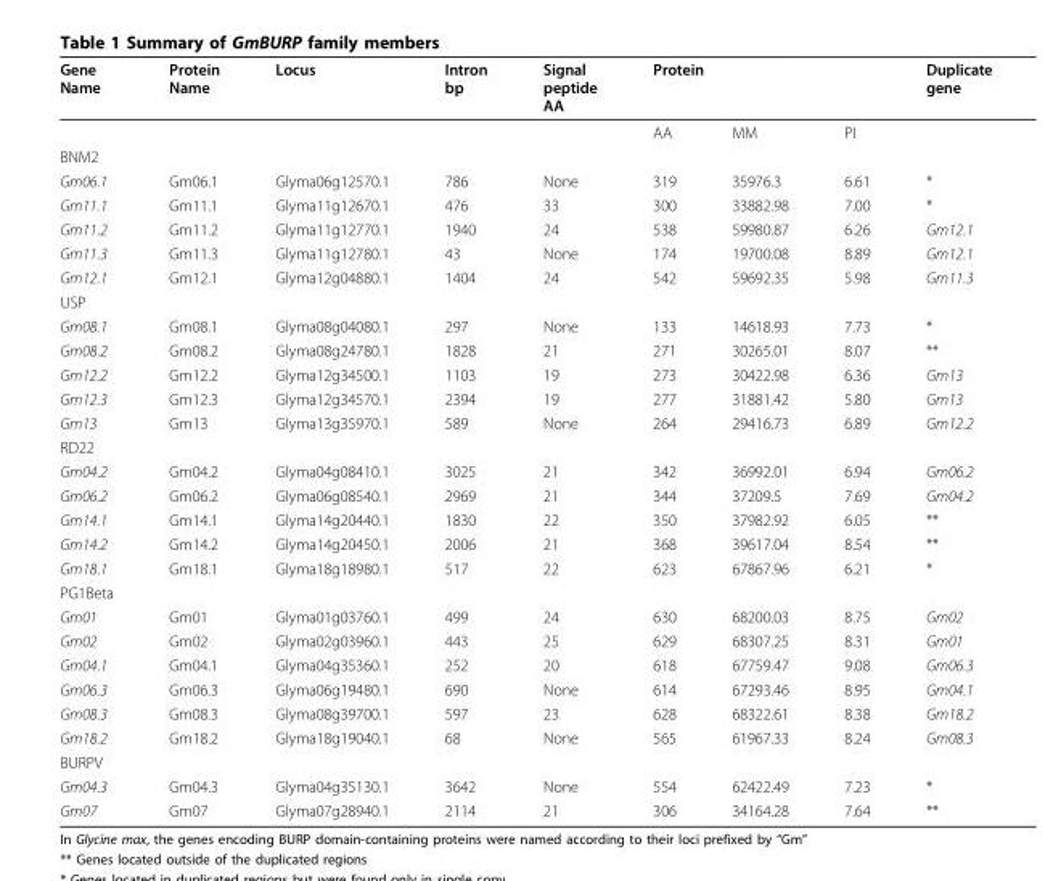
<table><thead><tr><td rowspan="2">Gene Name</td><td rowspan="2">Protein Name</td><td rowspan="2">Locus</td><td rowspan="2">Intron bp</td><td rowspan="2">Signal peptide AA</td><td colspan="3">Protein</td><td rowspan="2">Duplicate gene</td></tr><tr><td>AA</td><td>MM</td><td>PI</td></tr></thead><tbody><tr><td colspan="9">BNM2</td></tr><tr><td>Gm06.1</td><td>Gm06.1</td><td>Glyma06g12570.1</td><td>786</td><td>None</td><td>319</td><td>35976.3</td><td>6.61</td><td>*</td></tr><tr><td>Gm11.1</td><td>Gm11.1</td><td>Glyma11g12670.1</td><td>476</td><td>33</td><td>300</td><td>33882.98</td><td>7.00</td><td>*</td></tr><tr><td>Gm11.2</td><td>Gm11.2</td><td>Glyma11g12770.1</td><td>1940</td><td>24</td><td>538</td><td>59980.87</td><td>6.26</td><td>Gm12.1</td></tr><tr><td>Gm11.3</td><td>Gm11.3</td><td>Glyma11g12780.1</td><td>43</td><td>None</td><td>174</td><td>19700.08</td><td>8.89</td><td>Gm12.1</td></tr><tr><td>Gm12.1</td><td>Gm12.1</td><td>Glyma12g04880.1</td><td>1404</td><td>24</td><td>542</td><td>59692.35</td><td>5.98</td><td>Gm11.3</td></tr><tr><td colspan="9">USP</td></tr><tr><td>Gm08.1</td><td>Gm08.1</td><td>Glyma08g04080.1</td><td>297</td><td>None</td><td>133</td><td>14618.93</td><td>7.73</td><td>*</td></tr><tr><td>Gm08.2</td><td>Gm08.2</td><td>Glyma08g24780.1</td><td>1828</td><td>21</td><td>271</td><td>30265.01</td><td>8.07</td><td>**</td></tr><tr><td>Gm12.2</td><td>Gm12.2</td><td>Glyma12g34500.1</td><td>1103</td><td>19</td><td>273</td><td>30422.98</td><td>6.36</td><td>Gm13</td></tr><tr><td>Gm12.3</td><td>Gm12.3</td><td>Glyma12g34570.1</td><td>2394</td><td>19</td><td>277</td><td>31881.42</td><td>5.80</td><td>Gm13</td></tr><tr><td>Gm13</td><td>Gm13</td><td>Glyma13g35970.1</td><td>589</td><td>None</td><td>264</td><td>29416.73</td><td>6.89</td><td>Gm12.2</td></tr><tr><td colspan="9">RD22</td></tr><tr><td>Gm04.2</td><td>Gm04.2</td><td>Glyma04g08410.1</td><td>3025</td><td>21</td><td>342</td><td>36992.01</td><td>6.94</td><td>Gm06.2</td></tr><tr><td>Gm06.2</td><td>Gm06.2</td><td>Glyma06g08540.1</td><td>2969</td><td>21</td><td>344</td><td>37209.5</td><td>7.69</td><td>Gm04.2</td></tr><tr><td>Gm14.1</td><td>Gm14.1</td><td>Glyma14g20440.1</td><td>1830</td><td>22</td><td>350</td><td>37982.92</td><td>6.05</td><td>**</td></tr><tr><td>Gm14.2</td><td>Gm14.2</td><td>Glyma14g20450.1</td><td>2006</td><td>21</td><td>368</td><td>39617.04</td><td>8.54</td><td>**</td></tr><tr><td>Gm18.1</td><td>Gm18.1</td><td>Glyma18g18980.1</td><td>517</td><td>22</td><td>623</td><td>67867.96</td><td>6.21</td><td>*</td></tr><tr><td colspan="9">PG1Beta</td></tr><tr><td>Gm01</td><td>Gm01</td><td>Glyma01g03760.1</td><td>499</td><td>24</td><td>630</td><td>68200.03</td><td>8.75</td><td>Gm02</td></tr><tr><td>Gm02</td><td>Gm02</td><td>Glyma02g03960.1</td><td>443</td><td>25</td><td>629</td><td>68307.25</td><td>8.31</td><td>Gm01</td></tr><tr><td>Gm04.1</td><td>Gm04.1</td><td>Glyma04g35360.1</td><td>252</td><td>20</td><td>618</td><td>67759.47</td><td>9.08</td><td>Gm06.3</td></tr><tr><td>Gm06.3</td><td>Gm06.3</td><td>Glyma06g19480.1</td><td>690</td><td>None</td><td>614</td><td>67293.46</td><td>8.95</td><td>Gm04.1</td></tr><tr><td>Gm08.3</td><td>Gm08.3</td><td>Glyma08g39700.1</td><td>597</td><td>23</td><td>628</td><td>68322.61</td><td>8.38</td><td>Gm18.2</td></tr><tr><td>Gm18.2</td><td>Gm18.2</td><td>Glyma18g19040.1</td><td>68</td><td>None</td><td>565</td><td>61967.33</td><td>8.24</td><td>Gm08.3</td></tr><tr><td colspan="9">BURPV</td></tr><tr><td>Gm04.3</td><td>Gm04.3</td><td>Glyma04g35130.1</td><td>3642</td><td>None</td><td>554</td><td>62422.49</td><td>7.23</td><td>*</td></tr><tr><td>Gm07</td><td>Gm07</td><td>Glyma07g28940.1</td><td>2114</td><td>21</td><td>306</td><td>34164.28</td><td>7.64</td><td>**</td></tr></tbody></table>